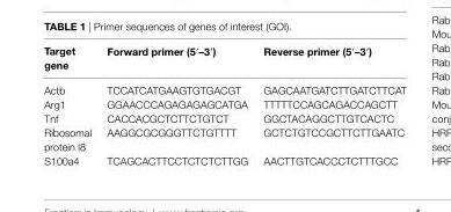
<table><thead><tr><td>Target gene</td><td>Forward primer (5′–3′)</td><td>reverse primer (5′–3′)</td></tr></thead><tbody><tr><td>Actb</td><td>TCCATCATGAAGTGTGACGT</td><td>GAGCAATGATCTTGATCTTCAT</td></tr><tr><td>Arg1</td><td>GGAACCCAGAGAGAGCATGA</td><td>TTTTTCCAGCAGACCAGCTT</td></tr><tr><td>Tnf</td><td>CACCACGCTCTTCTGTCT</td><td>GGCTACAGGCTTGTCACTC</td></tr><tr><td>Ribosomal protein l8</td><td>AAGGCGCGGGTTCTGTTTT</td><td>GCTCTGTCCGCTTCTTGAATC</td></tr><tr><td>S100a4</td><td>TCAGCACTTCCTCTCTCTTGG</td><td>AACTTGTCACCCTCTTTGCC</td></tr></tbody></table>